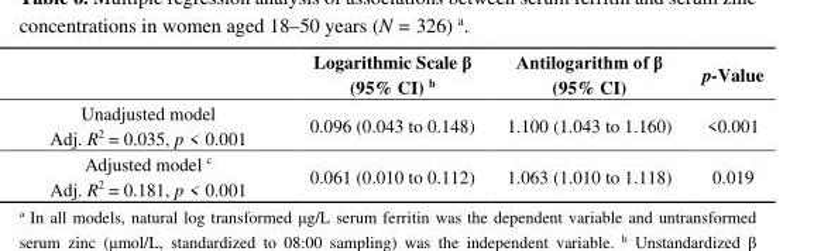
<table><thead><tr><td></td><td>Logarithmic Scale β (95% CI) <sup>b</sup></td><td>Antilogarithm of β (95% CI)</td><td>p-Value</td></tr></thead><tbody><tr><td>Unadjusted model Adj. R<sup>2</sup> = 0.035, p &lt; 0.001</td><td>0.096 (0.043 to 0.148)</td><td>1.100 (1.043 to 1.160)</td><td>&lt;0.001</td></tr><tr><td>Adjusted model <sup>c</sup> Adj. R<sup>2</sup> = 0.181, p &lt; 0.001</td><td>0.061 (0.010 to 0.112)</td><td>1.063 (1.010 to 1.118)</td><td>0.019</td></tr></tbody></table>